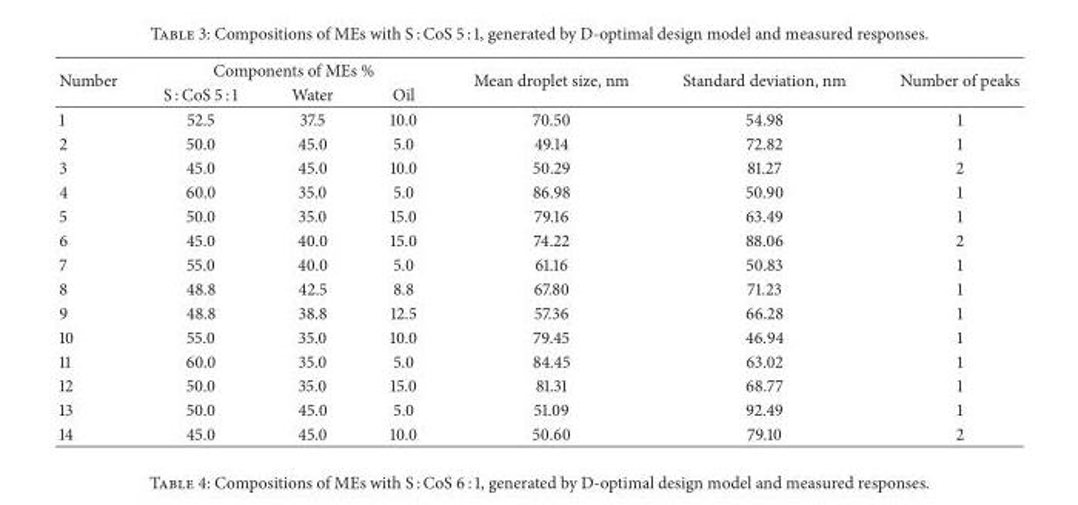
<table><thead><tr><td rowspan="2">Number</td><td colspan="3">Components of MEs %</td><td rowspan="2">Mean droplet size, nm</td><td rowspan="2">Standard deviation, nm</td><td rowspan="2">Number of peaks</td></tr><tr><td>S : CoS 5 : 1</td><td>Water</td><td>Oil</td></tr></thead><tbody><tr><td>1</td><td>52.5</td><td>37.5</td><td>10.0</td><td>70.50</td><td>54.98</td><td>1</td></tr><tr><td>2</td><td>50.0</td><td>45.0</td><td>5.0</td><td>49.14</td><td>72.82</td><td>1</td></tr><tr><td>3</td><td>45.0</td><td>45.0</td><td>10.0</td><td>50.29</td><td>81.27</td><td>2</td></tr><tr><td>4</td><td>60.0</td><td>35.0</td><td>5.0</td><td>86.98</td><td>50.90</td><td>1</td></tr><tr><td>5</td><td>50.0</td><td>35.0</td><td>15.0</td><td>79.16</td><td>63.49</td><td>1</td></tr><tr><td>6</td><td>45.0</td><td>40.0</td><td>15.0</td><td>74.22</td><td>88.06</td><td>2</td></tr><tr><td>7</td><td>55.0</td><td>40.0</td><td>5.0</td><td>61.16</td><td>50.83</td><td>1</td></tr><tr><td>8</td><td>48.8</td><td>42.5</td><td>8.8</td><td>67.80</td><td>71.23</td><td>1</td></tr><tr><td>9</td><td>48.8</td><td>38.8</td><td>12.5</td><td>57.36</td><td>66.28</td><td>1</td></tr><tr><td>10</td><td>55.0</td><td>35.0</td><td>10.0</td><td>79.45</td><td>46.94</td><td>1</td></tr><tr><td>11</td><td>60.0</td><td>35.0</td><td>5.0</td><td>84.45</td><td>63.02</td><td>1</td></tr><tr><td>12</td><td>50.0</td><td>35.0</td><td>15.0</td><td>81.31</td><td>68.77</td><td>1</td></tr><tr><td>13</td><td>50.0</td><td>45.0</td><td>5.0</td><td>51.09</td><td>92.49</td><td>1</td></tr><tr><td>14</td><td>45.0</td><td>45.0</td><td>10.0</td><td>50.60</td><td>79.10</td><td>2</td></tr></tbody></table>